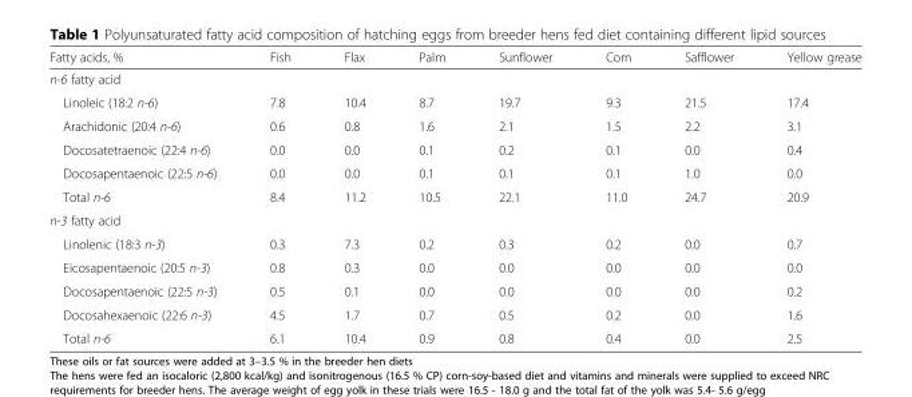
<table><thead><tr><td>Fatty acids, %</td><td>Fish</td><td>Flax</td><td>Palm</td><td>Sunflower</td><td>Corn</td><td>Safflower</td><td>Yellow grease</td></tr></thead><tbody><tr><td colspan="8">n-6 fatty acid</td></tr><tr><td>Linoleic (18:2 n-6)</td><td>7.8</td><td>10.4</td><td>8.7</td><td>19.7</td><td>9.3</td><td>21.5</td><td>17.4</td></tr><tr><td>Arachidonic (20:4 n-6)</td><td>0.6</td><td>0.8</td><td>1.6</td><td>2.1</td><td>1.5</td><td>2.2</td><td>3.1</td></tr><tr><td>Docosatetraenoic (22:4 n-6)</td><td>0.0</td><td>0.0</td><td>0.1</td><td>0.2</td><td>0.1</td><td>0.0</td><td>0.4</td></tr><tr><td>Docosapentaenoic (22:5 n-6)</td><td>0.0</td><td>0.0</td><td>0.1</td><td>0.1</td><td>0.1</td><td>1.0</td><td>0.0</td></tr><tr><td>Total n-6</td><td>8.4</td><td>11.2</td><td>10.5</td><td>22.1</td><td>11.0</td><td>24.7</td><td>20.9</td></tr><tr><td colspan="8">n-3 fatty acid</td></tr><tr><td>Linolenic (18:3 n-3)</td><td>0.3</td><td>7.3</td><td>0.2</td><td>0.3</td><td>0.2</td><td>0.0</td><td>0.7</td></tr><tr><td>Eicosapentaenoic (20:5 n-3)</td><td>0.8</td><td>0.3</td><td>0.0</td><td>0.0</td><td>0.0</td><td>0.0</td><td>0.0</td></tr><tr><td>Docosapentaenoic (22:5 n-3)</td><td>0.5</td><td>0.1</td><td>0.0</td><td>0.0</td><td>0.0</td><td>0.0</td><td>0.2</td></tr><tr><td>Docosahexaenoic (22:6 n-3)</td><td>4.5</td><td>1.7</td><td>0.7</td><td>0.5</td><td>0.2</td><td>0.0</td><td>1.6</td></tr><tr><td>Total n-6</td><td>6.1</td><td>10.4</td><td>0.9</td><td>0.8</td><td>0.4</td><td>0.0</td><td>2.5</td></tr></tbody></table>